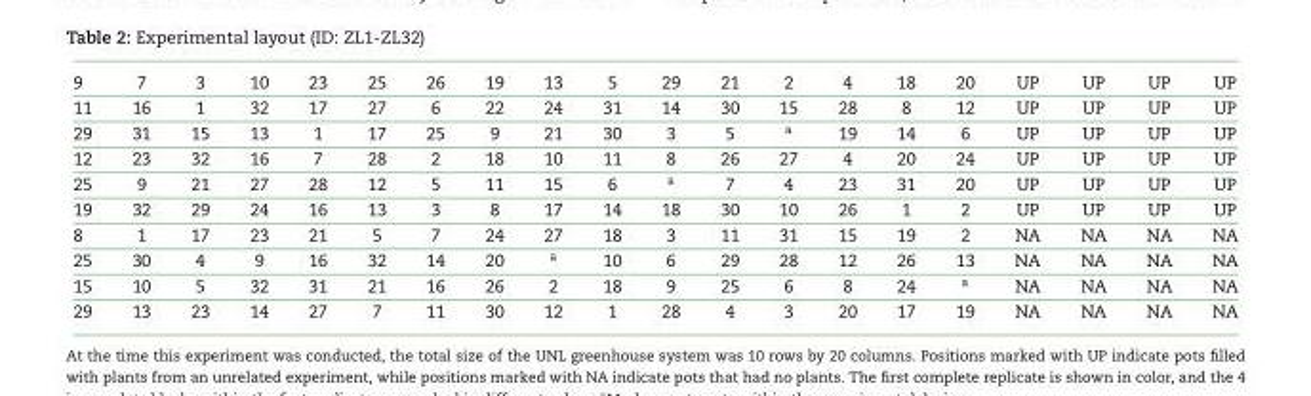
<table><tbody><tr><td>9</td><td>7</td><td>3</td><td>10</td><td>23</td><td>25</td><td>26</td><td>19</td><td>13</td><td>5</td><td>29</td><td>21</td><td>2</td><td>4</td><td>18</td><td>20</td><td>UP</td><td>UP</td><td>UP</td><td>UP</td></tr><tr><td>11</td><td>16</td><td>1</td><td>32</td><td>17</td><td>27</td><td>6</td><td>22</td><td>24</td><td>31</td><td>14</td><td>30</td><td>15</td><td>28</td><td>8</td><td>12</td><td>UP</td><td>UP</td><td>UP</td><td>UP</td></tr><tr><td>29</td><td>31</td><td>15</td><td>13</td><td>1</td><td>17</td><td>25</td><td>9</td><td>21</td><td>30</td><td>3</td><td>5</td><td><sup>a</sup></td><td>19</td><td>14</td><td>6</td><td>UP</td><td>UP</td><td>UP</td><td>UP</td></tr><tr><td>12</td><td>23</td><td>32</td><td>16</td><td>7</td><td>28</td><td>2</td><td>18</td><td>10</td><td>11</td><td>8</td><td>26</td><td>27</td><td>4</td><td>20</td><td>24</td><td>UP</td><td>UP</td><td>UP</td><td>UP</td></tr><tr><td>25</td><td>9</td><td>21</td><td>27</td><td>28</td><td>12</td><td>5</td><td>11</td><td>15</td><td>6</td><td><sup>a</sup></td><td>7</td><td>4</td><td>23</td><td>31</td><td>20</td><td>UP</td><td>UP</td><td>UP</td><td>UP</td></tr><tr><td>19</td><td>32</td><td>29</td><td>24</td><td>16</td><td>13</td><td>3</td><td>8</td><td>17</td><td>14</td><td>18</td><td>30</td><td>10</td><td>26</td><td>1</td><td>2</td><td>UP</td><td>UP</td><td>UP</td><td>UP</td></tr><tr><td>8</td><td>1</td><td>17</td><td>23</td><td>21</td><td>5</td><td>7</td><td>24</td><td>27</td><td>18</td><td>3</td><td>11</td><td>31</td><td>15</td><td>19</td><td>2</td><td>NA</td><td>NA</td><td>NA</td><td>NA</td></tr><tr><td>25</td><td>30</td><td>4</td><td>9</td><td>16</td><td>32</td><td>14</td><td>20</td><td><sup>a</sup></td><td>10</td><td>6</td><td>29</td><td>28</td><td>12</td><td>26</td><td>13</td><td>NA</td><td>NA</td><td>NA</td><td>NA</td></tr><tr><td>15</td><td>10</td><td>5</td><td>32</td><td>31</td><td>21</td><td>16</td><td>26</td><td>2</td><td>18</td><td>9</td><td>25</td><td>6</td><td>8</td><td>24</td><td><sup>a</sup></td><td>NA</td><td>NA</td><td>NA</td><td>NA</td></tr><tr><td>29</td><td>13</td><td>23</td><td>14</td><td>27</td><td>7</td><td>11</td><td>30</td><td>12</td><td>1</td><td>28</td><td>4</td><td>3</td><td>20</td><td>17</td><td>19</td><td>NA</td><td>NA</td><td>NA</td><td>NA</td></tr></tbody></table>